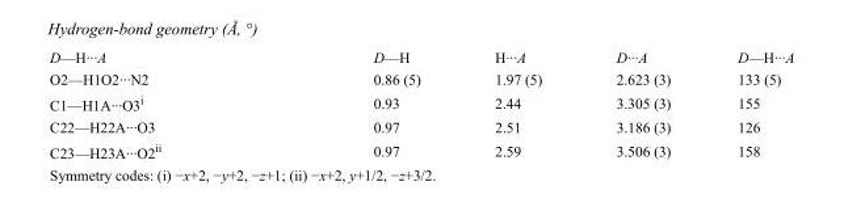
<table><tbody><tr><td>D—H···A</td><td>D—H</td><td>H···A</td><td>D···A</td><td>D—H···A</td></tr><tr><td>O2—H1O2···N2</td><td>0.86 (5)</td><td>1.97 (5)</td><td>2.623 (3)</td><td>133 (5)</td></tr><tr><td>C1—H1A···O3<sup>i</sup></td><td>0.93</td><td>2.44</td><td>3.305 (3)</td><td>155</td></tr><tr><td>C22—H22A···O3</td><td>0.97</td><td>2.51</td><td>3.186 (3)</td><td>126</td></tr><tr><td>C23—H23A···O2<sup>ii</sup></td><td>0.97</td><td>2.59</td><td>3.506 (3)</td><td>158</td></tr></tbody></table>